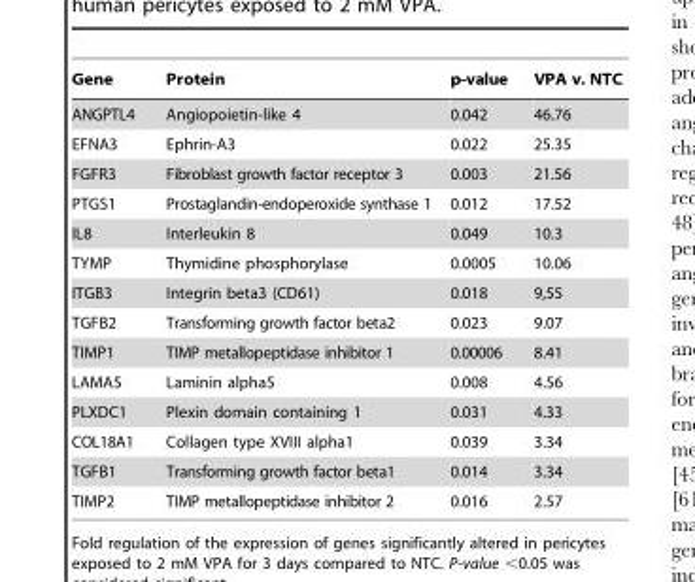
<table><thead><tr><td>Gene</td><td>Protein</td><td>p-value</td><td>VPA v. NTC</td></tr></thead><tbody><tr><td>ANGPTL4</td><td>Angiopoietin-like 4</td><td>0.042</td><td>46.76</td></tr><tr><td>EFNA3</td><td>Ephrin-A3</td><td>0.022</td><td>25.35</td></tr><tr><td>FGFR3</td><td>Fibroblast growth factor receptor 3</td><td>0.003</td><td>21.56</td></tr><tr><td>PTGS1</td><td>Prostaglandin-endoperoxide synthase 1</td><td>0.012</td><td>17.52</td></tr><tr><td>IL8</td><td>Interleukin 8</td><td>0.049</td><td>10.3</td></tr><tr><td>TYMP</td><td>Thymidine phosphorylase</td><td>0.0005</td><td>10.06</td></tr><tr><td>ITGB3</td><td>Integrin beta3 (CD61)</td><td>0.018</td><td>9,55</td></tr><tr><td>TGFB2</td><td>Transforming growth factor beta2</td><td>0.023</td><td>9.07</td></tr><tr><td>TIMP1</td><td>TIMP metallopeptidase inhibitor 1</td><td>0.00006</td><td>8.41</td></tr><tr><td>LAMA5</td><td>Laminin alpha5</td><td>0.008</td><td>4.56</td></tr><tr><td>PLXDC1</td><td>Plexin domain containing 1</td><td>0.031</td><td>4.33</td></tr><tr><td>COL18A1</td><td>Collagen type XVIII alpha1</td><td>0.039</td><td>3.34</td></tr><tr><td>TGFB1</td><td>Transforming growth factor beta1</td><td>0.014</td><td>3.34</td></tr><tr><td>TIMP2</td><td>TIMP metallopeptidase inhibitor 2</td><td>0.016</td><td>2.57</td></tr></tbody></table>